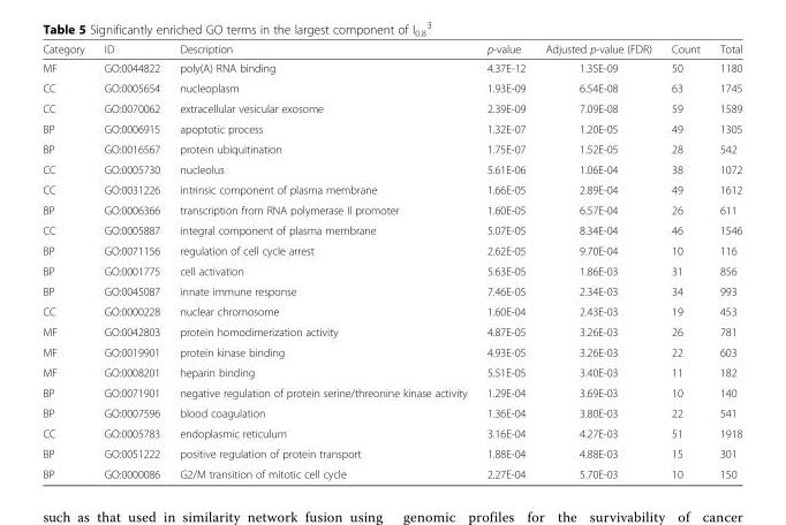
<table><thead><tr><td>Category</td><td>ID</td><td>Description</td><td>p-value</td><td>Adjusted p-value (FDR)</td><td>Count</td><td>Total</td></tr></thead><tbody><tr><td>MF</td><td>GO:0044822</td><td>poly(A) RNA binding</td><td>4.37E-12</td><td>1.35E-09</td><td>50</td><td>1180</td></tr><tr><td>CC</td><td>GO:0005654</td><td>nucleoplasm</td><td>1.93E-09</td><td>6.54E-08</td><td>63</td><td>1745</td></tr><tr><td>CC</td><td>GO:0070062</td><td>extracellular vesicular exosome</td><td>2.39E-09</td><td>7.09E-08</td><td>59</td><td>1589</td></tr><tr><td>BP</td><td>GO:0006915</td><td>apoptotic process</td><td>1.32E-07</td><td>1.20E-05</td><td>49</td><td>1305</td></tr><tr><td>BP</td><td>GO:0016567</td><td>protein ubiquitination</td><td>1.75E-07</td><td>1.52E-05</td><td>28</td><td>542</td></tr><tr><td>CC</td><td>GO:0005730</td><td>nucleolus</td><td>5.61E-06</td><td>1.06E-04</td><td>38</td><td>1072</td></tr><tr><td>CC</td><td>GO:0031226</td><td>intrinsic component of plasma membrane</td><td>1.66E-05</td><td>2.89E-04</td><td>49</td><td>1612</td></tr><tr><td>BP</td><td>GO:0006366</td><td>transcription from RNA polymerase II promoter</td><td>1.60E-05</td><td>6.57E-04</td><td>26</td><td>611</td></tr><tr><td>CC</td><td>GO:0005887</td><td>integral component of plasma membrane</td><td>5.07E-05</td><td>8.34E-04</td><td>46</td><td>1546</td></tr><tr><td>BP</td><td>GO:0071156</td><td>regulation of cell cycle arrest</td><td>2.62E-05</td><td>9.70E-04</td><td>10</td><td>116</td></tr><tr><td>BP</td><td>GO:0001775</td><td>cell activation</td><td>5.63E-05</td><td>1.86E-03</td><td>31</td><td>856</td></tr><tr><td>BP</td><td>GO:0045087</td><td>innate immune response</td><td>7.46E-05</td><td>2.34E-03</td><td>34</td><td>993</td></tr><tr><td>CC</td><td>GO:0000228</td><td>nuclear chromosome</td><td>1.60E-04</td><td>2.43E-03</td><td>19</td><td>453</td></tr><tr><td>MF</td><td>GO:0042803</td><td>protein homodimerization activity</td><td>4.87E-05</td><td>3.26E-03</td><td>26</td><td>781</td></tr><tr><td>MF</td><td>GO:0019901</td><td>protein kinase binding</td><td>4.93E-05</td><td>3.26E-03</td><td>22</td><td>603</td></tr><tr><td>MF</td><td>GO:0008201</td><td>heparin binding</td><td>5.51E-05</td><td>3.40E-03</td><td>11</td><td>182</td></tr><tr><td>BP</td><td>GO:0071901</td><td>negative regulation of protein serine/threonine kinase activity</td><td>1.29E-04</td><td>3.69E-03</td><td>10</td><td>140</td></tr><tr><td>BP</td><td>GO:0007596</td><td>blood coagulation</td><td>1.36E-04</td><td>3.80E-03</td><td>22</td><td>541</td></tr><tr><td>CC</td><td>GO:0005783</td><td>endoplasmic reticulum</td><td>3.16E-04</td><td>4.27E-03</td><td>51</td><td>1918</td></tr><tr><td>BP</td><td>GO:0051222</td><td>positive regulation of protein transport</td><td>1.88E-04</td><td>4.88E-03</td><td>15</td><td>301</td></tr><tr><td>BP</td><td>GO:0000086</td><td>G2/M transition of mitotic cell cycle</td><td>2.27E-04</td><td>5.70E-03</td><td>10</td><td>150</td></tr></tbody></table>